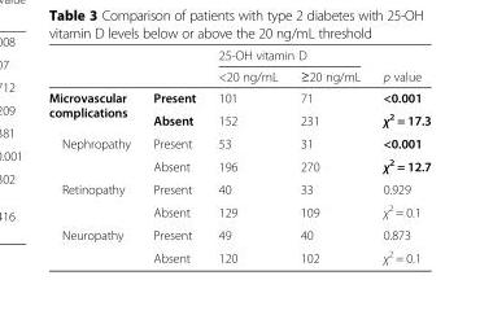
<table><thead><tr><td rowspan="2"></td><td rowspan="2"></td><td colspan="2">25-OH vitamin D</td><td rowspan="2">p value</td></tr><tr><td>&lt;20 ng/mL</td><td>≥20 ng/mL</td></tr></thead><tbody><tr><td rowspan="2">Microvascular complications</td><td>Present</td><td>101</td><td>71</td><td>&lt;0.001</td></tr><tr><td>Absent</td><td>152</td><td>231</td><td>χ<sup>2</sup> = 17.3</td></tr><tr><td rowspan="2">Nephropathy</td><td>Present</td><td>53</td><td>31</td><td>&lt;0.001</td></tr><tr><td>Absent</td><td>196</td><td>270</td><td>χ<sup>2</sup> = 12.7</td></tr><tr><td rowspan="2">Retinopathy</td><td>Present</td><td>40</td><td>33</td><td>0.929</td></tr><tr><td>Absent</td><td>129</td><td>109</td><td>χ<sup>2</sup> = 0.1</td></tr><tr><td rowspan="2">Neuropathy</td><td>Present</td><td>49</td><td>40</td><td>0.873</td></tr><tr><td>Absent</td><td>120</td><td>102</td><td>χ<sup>2</sup> = 0.1</td></tr></tbody></table>